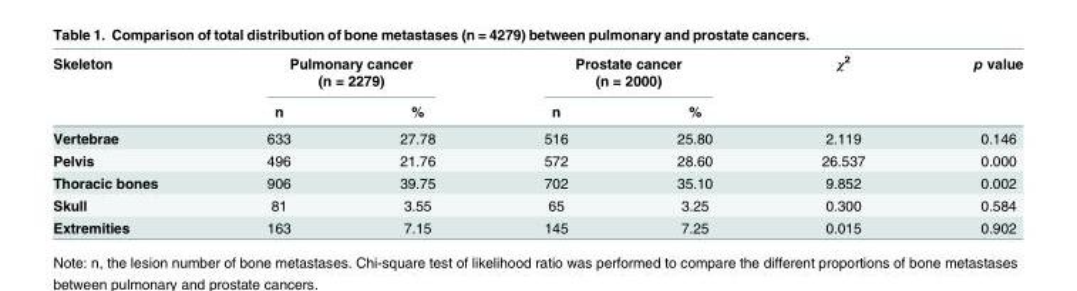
<table><thead><tr><td rowspan="2">Skeleton</td><td colspan="2">Pulmonary cancer (n = 2279)</td><td colspan="2">Prostate cancer (n = 2000)</td><td rowspan="2">χ<sup>2</sup></td><td rowspan="2">p value</td></tr><tr><td>n</td><td>%</td><td>n</td><td>%</td></tr></thead><tbody><tr><td>Vertebrae</td><td>633</td><td>27.78</td><td>516</td><td>25.80</td><td>2.119</td><td>0.146</td></tr><tr><td>Pelvis</td><td>496</td><td>21.76</td><td>572</td><td>28.60</td><td>26.537</td><td>0.000</td></tr><tr><td>Thoracic bones</td><td>906</td><td>39.75</td><td>702</td><td>35.10</td><td>9.852</td><td>0.002</td></tr><tr><td>Skull</td><td>81</td><td>3.55</td><td>65</td><td>3.25</td><td>0.300</td><td>0.584</td></tr><tr><td>Extremities</td><td>163</td><td>7.15</td><td>145</td><td>7.25</td><td>0.015</td><td>0.902</td></tr></tbody></table>